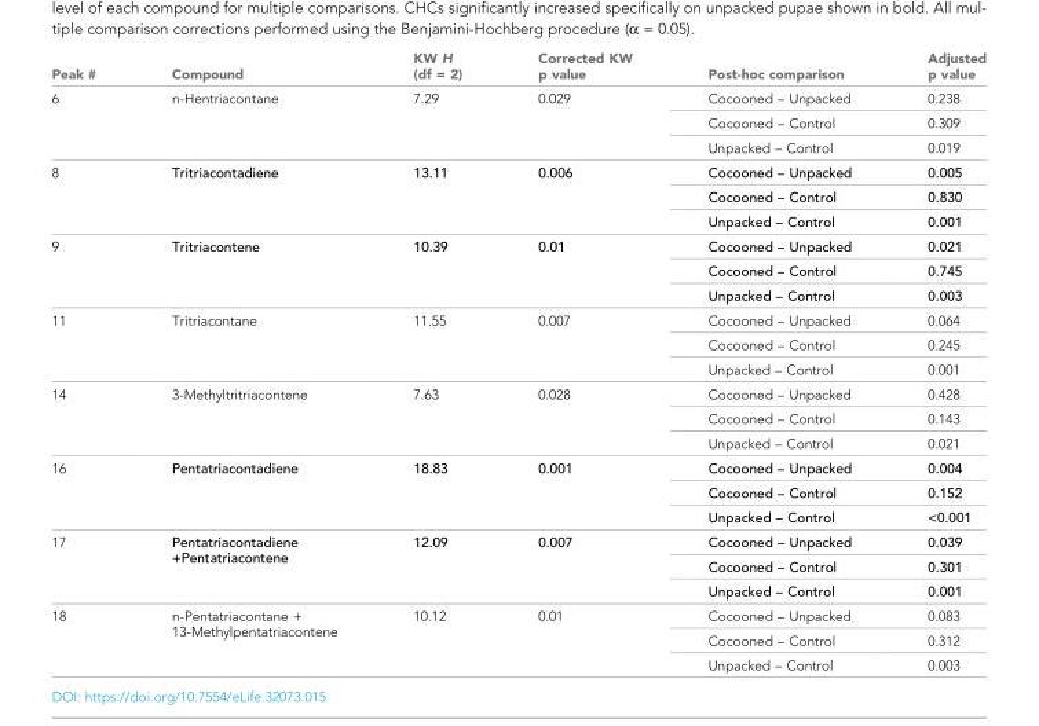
<table><thead><tr><td>Peak #</td><td>Compound</td><td>KW H (df = 2)</td><td>Corrected KW p value</td><td>Post-hoc comparison</td><td>Adjusted p value</td></tr></thead><tbody><tr><td rowspan="3">6</td><td rowspan="3">n-Hentriacontane</td><td rowspan="3">7.29</td><td rowspan="3">0.029</td><td>Cocooned – Unpacked</td><td>0.238</td></tr><tr><td>Cocooned – Control</td><td>0.309</td></tr><tr><td>Unpacked – Control</td><td>0.019</td></tr><tr><td rowspan="3">8</td><td rowspan="3">Tritriacontadiene</td><td rowspan="3">13.11</td><td rowspan="3">0.006</td><td>Cocooned – Unpacked</td><td>0.005</td></tr><tr><td>Cocooned – Control</td><td>0.830</td></tr><tr><td>Unpacked – Control</td><td>0.001</td></tr><tr><td rowspan="3">9</td><td rowspan="3">Tritriacontene</td><td rowspan="3">10.39</td><td rowspan="3">0.01</td><td>Cocooned – Unpacked</td><td>0.021</td></tr><tr><td>Cocooned – Control</td><td>0.745</td></tr><tr><td>Unpacked – Control</td><td>0.003</td></tr><tr><td rowspan="3">11</td><td rowspan="3">Tritriacontane</td><td rowspan="3">11.55</td><td rowspan="3">0.007</td><td>Cocooned – Unpacked</td><td>0.064</td></tr><tr><td>Cocooned – Control</td><td>0.245</td></tr><tr><td>Unpacked – Control</td><td>0.001</td></tr><tr><td rowspan="3">14</td><td rowspan="3">3-Methyltritriacontene</td><td rowspan="3">7.63</td><td rowspan="3">0.028</td><td>Cocooned – Unpacked</td><td>0.428</td></tr><tr><td>Cocooned – Control</td><td>0.143</td></tr><tr><td>Unpacked – Control</td><td>0.021</td></tr><tr><td rowspan="3">16</td><td rowspan="3">Pentatriacontadiene</td><td rowspan="3">18.83</td><td rowspan="3">0.001</td><td>Cocooned – Unpacked</td><td>0.004</td></tr><tr><td>Cocooned – Control</td><td>0.152</td></tr><tr><td>Unpacked – Control</td><td>&lt;0.001</td></tr><tr><td rowspan="3">17</td><td rowspan="3">Pentatriacontadiene +Pentatriacontene</td><td rowspan="3">12.09</td><td rowspan="3">0.007</td><td>Cocooned – Unpacked</td><td>0.039</td></tr><tr><td>Cocooned – Control</td><td>0.301</td></tr><tr><td>Unpacked – Control</td><td>0.001</td></tr><tr><td rowspan="3">18</td><td rowspan="3">n-Pentatriacontane + 13-Methylpentatriacontene</td><td rowspan="3">10.12</td><td rowspan="3">0.01</td><td>Cocooned – Unpacked</td><td>0.083</td></tr><tr><td>Cocooned – Control</td><td>0.312</td></tr><tr><td>Unpacked – Control</td><td>0.003</td></tr></tbody></table>